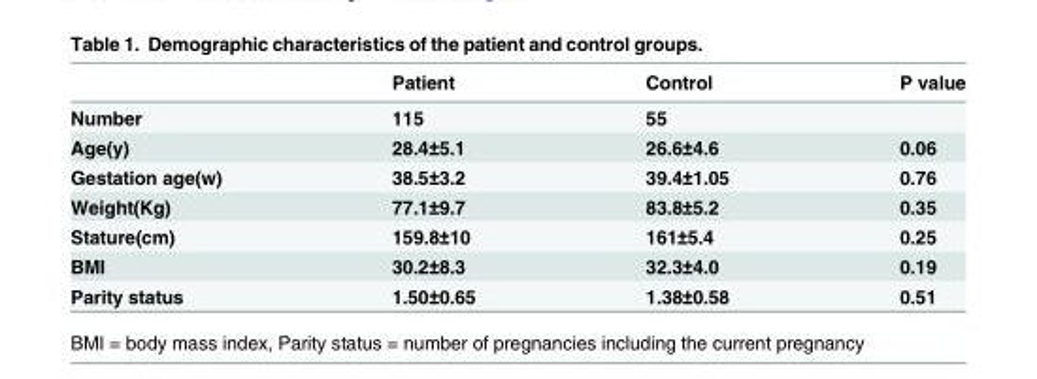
<table><thead><tr><td></td><td>Patient</td><td>Control</td><td>P value</td></tr></thead><tbody><tr><td>Number</td><td>115</td><td>55</td><td></td></tr><tr><td>Age(y)</td><td>28.4±5.1</td><td>26.6±4.6</td><td>0.06</td></tr><tr><td>Gestation age(w)</td><td>38.5±3.2</td><td>39.4±1.05</td><td>0.76</td></tr><tr><td>Weight(Kg)</td><td>77.1±9.7</td><td>83.8±5.2</td><td>0.35</td></tr><tr><td>Stature(cm)</td><td>159.8±10</td><td>161±5.4</td><td>0.25</td></tr><tr><td>BMI</td><td>30.2±8.3</td><td>32.3±4.0</td><td>0.19</td></tr><tr><td>Parity status</td><td>1.50±0.65</td><td>1.38±0.58</td><td>0.51</td></tr></tbody></table>